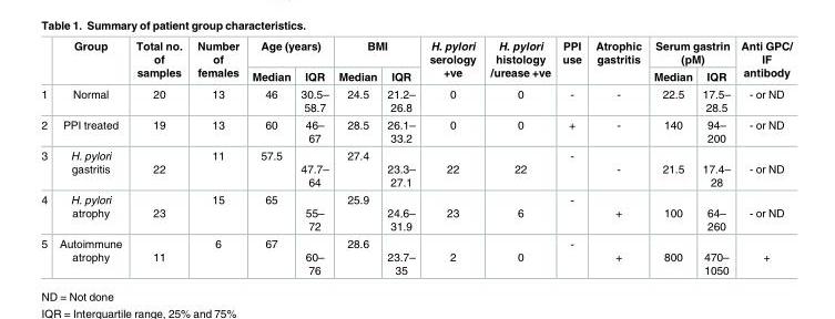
<table><thead><tr><td rowspan="2"></td><td rowspan="2">Group</td><td rowspan="2">Total no. of samples</td><td rowspan="2">Number of females</td><td colspan="2">Age (years)</td><td colspan="2">BMI</td><td rowspan="2">H. pylori serology +ve</td><td rowspan="2">H. pylori histology /urease +ve</td><td rowspan="2">PPI use</td><td rowspan="2">Atrophic gastritis</td><td colspan="2">Serum gastrin (pM)</td><td rowspan="2">Anti GPC/ IF antibody</td></tr><tr><td>Median</td><td>IQR</td><td>Median</td><td>IQR</td><td>Median</td><td>IQR</td></tr></thead><tbody><tr><td>1</td><td>Normal</td><td>20</td><td>13</td><td>46</td><td>30.5– 58.7</td><td>24.5</td><td>21.2– 26.8</td><td>0</td><td>0</td><td>-</td><td>-</td><td>22.5</td><td>17.5– 28.5</td><td>- or ND</td></tr><tr><td>2</td><td>PPI treated</td><td>19</td><td>13</td><td>60</td><td>46– 67</td><td>28.5</td><td>26.1– 33.2</td><td>0</td><td>0</td><td>+</td><td>-</td><td>140</td><td>94– 200</td><td>- or ND</td></tr><tr><td>3</td><td>H. pylori gastritis</td><td>22</td><td>11</td><td>57.5</td><td>47.7– 64</td><td>27.4</td><td>23.3– 27.1</td><td>22</td><td>22</td><td>-</td><td>-</td><td>21.5</td><td>17.4– 28</td><td>- or ND</td></tr><tr><td>4</td><td>H. pylori atrophy</td><td>23</td><td>15</td><td>65</td><td>55– 72</td><td>25.9</td><td>24.6– 31.9</td><td>23</td><td>6</td><td>-</td><td>+</td><td>100</td><td>64– 260</td><td>- or ND</td></tr><tr><td>5</td><td>Autoimmune atrophy</td><td>11</td><td>6</td><td>67</td><td>60– 76</td><td>28.6</td><td>23.7– 35</td><td>2</td><td>0</td><td>-</td><td>+</td><td>800</td><td>470– 1050</td><td>+</td></tr></tbody></table>